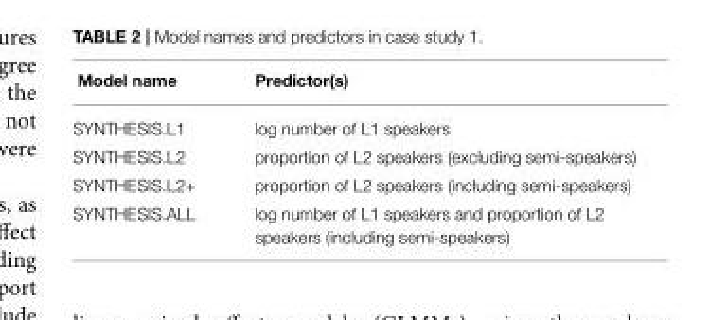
<table><thead><tr><td>Model name</td><td>Predictor(s)</td></tr></thead><tbody><tr><td>SYNTHESIS.L1</td><td>log number of L1 speakers</td></tr><tr><td>SYNTHESIS.L2</td><td>proportion of L2 speakers (excluding semi-speakers)</td></tr><tr><td>SYNTHESIS.L2+</td><td>proportion of L2 speakers (including semi-speakers)</td></tr><tr><td>SYNTHESIS.ALL</td><td>log number of L1 speakers and proportion of L2 speakers (including semi-speakers)</td></tr></tbody></table>